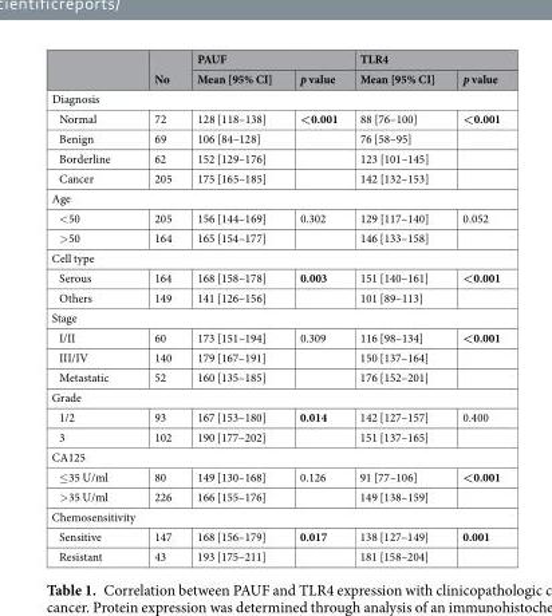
<table><thead><tr><td rowspan="2"></td><td rowspan="2">No</td><td colspan="2">PAUF</td><td colspan="2">TLR4</td></tr><tr><td>Mean [95% CI]</td><td>p value</td><td>Mean [95% CI]</td><td>p value</td></tr></thead><tbody><tr><td colspan="6">Diagnosis</td></tr><tr><td>Normal</td><td>72</td><td>128 [118–138]</td><td>&lt;0.001</td><td>88 [76–100]</td><td>&lt;0.001</td></tr><tr><td>Benign</td><td>69</td><td>106 [84–128]</td><td></td><td>76 [58–95]</td><td></td></tr><tr><td>Borderline</td><td>62</td><td>152 [129–176]</td><td></td><td>123 [101–145]</td><td></td></tr><tr><td>Cancer</td><td>205</td><td>175 [165–185]</td><td></td><td>142 [132–153]</td><td></td></tr><tr><td colspan="6">Age</td></tr><tr><td>&lt;50</td><td>205</td><td>156 [144–169]</td><td>0.302</td><td>129 [117–140]</td><td>0.052</td></tr><tr><td>&gt;50</td><td>164</td><td>165 [154–177]</td><td></td><td>146 [133–158]</td><td></td></tr><tr><td colspan="6">Cell type</td></tr><tr><td>Serous</td><td>164</td><td>168 [158–178]</td><td>0.003</td><td>151 [140–161]</td><td>&lt;0.001</td></tr><tr><td>Others</td><td>149</td><td>141 [126–156]</td><td></td><td>101 [89–113]</td><td></td></tr><tr><td colspan="6">Stage</td></tr><tr><td>I/II</td><td>60</td><td>173 [151–194]</td><td>0.309</td><td>116 [98–134]</td><td>&lt;0.001</td></tr><tr><td>III/IV</td><td>140</td><td>179 [167–191]</td><td></td><td>150 [137–164]</td><td></td></tr><tr><td>Metastatic</td><td>52</td><td>160 [135–185]</td><td></td><td>176 [152–201]</td><td></td></tr><tr><td colspan="6">Grade</td></tr><tr><td>1/2</td><td>93</td><td>167 [153–180]</td><td>0.014</td><td>142 [127–157]</td><td>0.400</td></tr><tr><td>3</td><td>102</td><td>190 [177–202]</td><td></td><td>151 [137–165]</td><td></td></tr><tr><td colspan="6">CA125</td></tr><tr><td>≤35 U/ml</td><td>80</td><td>149 [130–168]</td><td>0.126</td><td>91 [77–106]</td><td>&lt;0.001</td></tr><tr><td>&gt;35 U/ml</td><td>226</td><td>166 [155–176]</td><td></td><td>149 [138–159]</td><td></td></tr><tr><td colspan="6">Chemosensitivity</td></tr><tr><td>Sensitive</td><td>147</td><td>168 [156–179]</td><td>0.017</td><td>138 [127–149]</td><td>0.001</td></tr><tr><td>Resistant</td><td>43</td><td>193 [175–211]</td><td></td><td>181 [158–204]</td><td></td></tr></tbody></table>